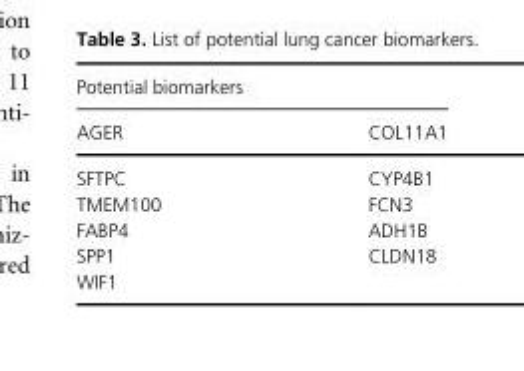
<table><thead><tr><td colspan="2">Potential biomarkers</td></tr><tr><td>AGER</td><td>COL11A1</td></tr></thead><tbody><tr><td>SFTPC</td><td>CYP4B1</td></tr><tr><td>TMEM100</td><td>FCN3</td></tr><tr><td>FABP4</td><td>ADH1B</td></tr><tr><td>SPP1</td><td>CLDN18</td></tr><tr><td>WIF1</td><td></td></tr></tbody></table>